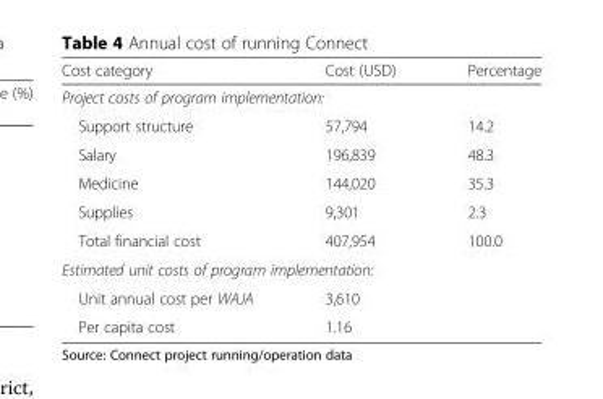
<table><thead><tr><td>Cost category</td><td>Cost (USD)</td><td>Percentage</td></tr></thead><tbody><tr><td colspan="3">Project costs of program implementation:</td></tr><tr><td>Support structure</td><td>57,794</td><td>14.2</td></tr><tr><td>Salary</td><td>196,839</td><td>48.3</td></tr><tr><td>Medicine</td><td>144,020</td><td>35.3</td></tr><tr><td>Supplies</td><td>9,301</td><td>2.3</td></tr><tr><td>Total financial cost</td><td>407,954</td><td>100.0</td></tr><tr><td colspan="3">Estimated unit costs of program implementation:</td></tr><tr><td>Unit annual cost per WAJA</td><td>3,610</td><td></td></tr><tr><td>Per capita cost</td><td>1.16</td><td></td></tr></tbody></table>